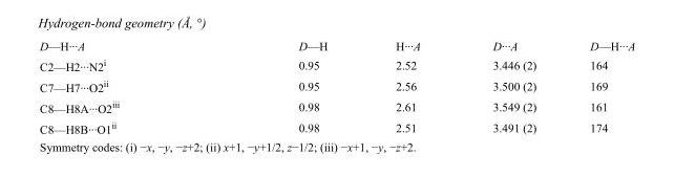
<table><tbody><tr><td>D—H···A</td><td>D—H</td><td>H···A</td><td>D···A</td><td>D—H···A</td></tr><tr><td>C2—H2···N2<sup>i</sup></td><td>0.95</td><td>2.52</td><td>3.446 (2)</td><td>164</td></tr><tr><td>C7—H7···O2<sup>ii</sup></td><td>0.95</td><td>2.56</td><td>3.500 (2)</td><td>169</td></tr><tr><td>C8—H8A···O2<sup>iii</sup></td><td>0.98</td><td>2.61</td><td>3.549 (2)</td><td>161</td></tr><tr><td>C8—H8B···O1<sup>ii</sup></td><td>0.98</td><td>2.51</td><td>3.491 (2)</td><td>174</td></tr></tbody></table>